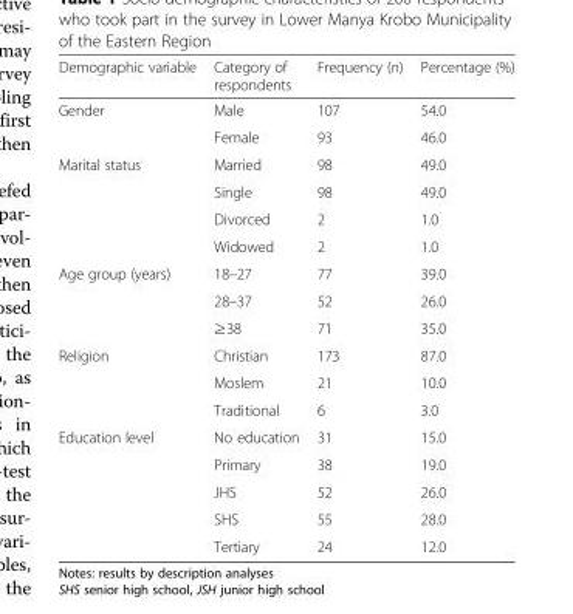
<table><thead><tr><td>Demographic variable</td><td>Category of respondents</td><td>Frequency (n)</td><td>Percentage (%)</td></tr></thead><tbody><tr><td rowspan="2">Gender</td><td>Male</td><td>107</td><td>54.0</td></tr><tr><td>Female</td><td>93</td><td>46.0</td></tr><tr><td rowspan="4">Marital status</td><td>Married</td><td>98</td><td>49.0</td></tr><tr><td>Single</td><td>98</td><td>49.0</td></tr><tr><td>Divorced</td><td>2</td><td>1.0</td></tr><tr><td>Widowed</td><td>2</td><td>1.0</td></tr><tr><td rowspan="3">Age group (years)</td><td>18–27</td><td>77</td><td>39.0</td></tr><tr><td>28–37</td><td>52</td><td>26.0</td></tr><tr><td>≥38</td><td>71</td><td>35.0</td></tr><tr><td rowspan="3">Religion</td><td>Christian</td><td>173</td><td>87.0</td></tr><tr><td>Moslem</td><td>21</td><td>10.0</td></tr><tr><td>Traditional</td><td>6</td><td>3.0</td></tr><tr><td rowspan="5">Education level</td><td>No education</td><td>31</td><td>15.0</td></tr><tr><td>Primary</td><td>38</td><td>19.0</td></tr><tr><td>JHS</td><td>52</td><td>26.0</td></tr><tr><td>SHS</td><td>55</td><td>28.0</td></tr><tr><td>Tertiary</td><td>24</td><td>12.0</td></tr></tbody></table>